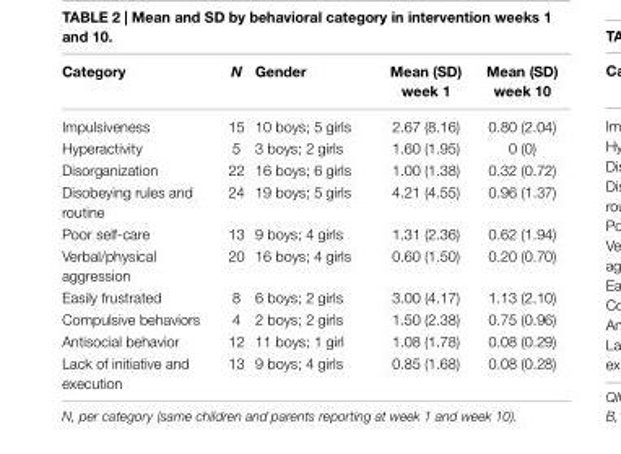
<table><thead><tr><td>category</td><td>N</td><td>gender</td><td>Mean (sD) week 1</td><td>Mean (sD) week 10</td></tr></thead><tbody><tr><td>Impulsiveness</td><td>15</td><td>10 boys; 5 girls</td><td>2.67 (8.16)</td><td>0.80 (2.04)</td></tr><tr><td>Hyperactivity</td><td>5</td><td>3 boys; 2 girls</td><td>1.60 (1.95)</td><td>0 (0)</td></tr><tr><td>Disorganization</td><td>22</td><td>16 boys; 6 girls</td><td>1.00 (1.38)</td><td>0.32 (0.72)</td></tr><tr><td>Disobeying rules and routine</td><td>24</td><td>19 boys; 5 girls</td><td>4.21 (4.55)</td><td>0.96 (1.37)</td></tr><tr><td>Poor self-care</td><td>13</td><td>9 boys; 4 girls</td><td>1.31 (2.36)</td><td>0.62 (1.94)</td></tr><tr><td>Verbal/physical aggression</td><td>20</td><td>16 boys; 4 girls</td><td>0.60 (1.50)</td><td>0.20 (0.70)</td></tr><tr><td>Easily frustrated</td><td>8</td><td>6 boys; 2 girls</td><td>3.00 (4.17)</td><td>1.13 (2.10)</td></tr><tr><td>Compulsive behaviors</td><td>4</td><td>2 boys; 2 girls</td><td>1.50 (2.38)</td><td>0.75 (0.96)</td></tr><tr><td>Antisocial behavior</td><td>12</td><td>11 boys; 1 girl</td><td>1.08 (1.78)</td><td>0.08 (0.29)</td></tr><tr><td>Lack of initiative and execution</td><td>13</td><td>9 boys; 4 girls</td><td>0.85 (1.68)</td><td>0.08 (0.28)</td></tr></tbody></table>